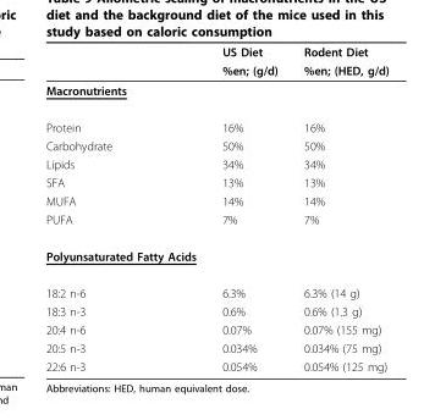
<table><thead><tr><td rowspan="2"></td><td rowspan="2">US Diet %en; (g/d)</td><td rowspan="2">Rodent Diet %en; (HED, g/d)</td></tr><tr></tr></thead><tbody><tr><td colspan="3">Macronutrients</td></tr><tr><td>Protein</td><td>16%</td><td>16%</td></tr><tr><td>Carbohydrate</td><td>50%</td><td>50%</td></tr><tr><td>Lipids</td><td>34%</td><td>34%</td></tr><tr><td>SFA</td><td>13%</td><td>13%</td></tr><tr><td>MUFA</td><td>14%</td><td>14%</td></tr><tr><td>PUFA</td><td>7%</td><td>7%</td></tr><tr><td colspan="3">Polyunsaturated Fatty Acids</td></tr><tr><td>18:2 n-6</td><td>6.3%</td><td>6.3% (14 g)</td></tr><tr><td>18:3 n-3</td><td>0.6%</td><td>0.6% (1.3 g)</td></tr><tr><td>20:4 n-6</td><td>0.07%</td><td>0.07% (155 mg)</td></tr><tr><td>20:5 n-3</td><td>0.034%</td><td>0.034% (75 mg)</td></tr><tr><td>22:6 n-3</td><td>0.054%</td><td>0.054% (125 mg)</td></tr></tbody></table>